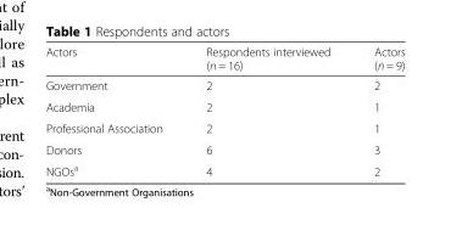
<table><thead><tr><td>Actors</td><td>Respondents interviewed (n = 16)</td><td>Actors (n = 9)</td></tr></thead><tbody><tr><td>Government</td><td>2</td><td>2</td></tr><tr><td>Academia</td><td>2</td><td>1</td></tr><tr><td>Professional Association</td><td>2</td><td>1</td></tr><tr><td>Donors</td><td>6</td><td>3</td></tr><tr><td>NGOs<sup>a</sup></td><td>4</td><td>2</td></tr></tbody></table>